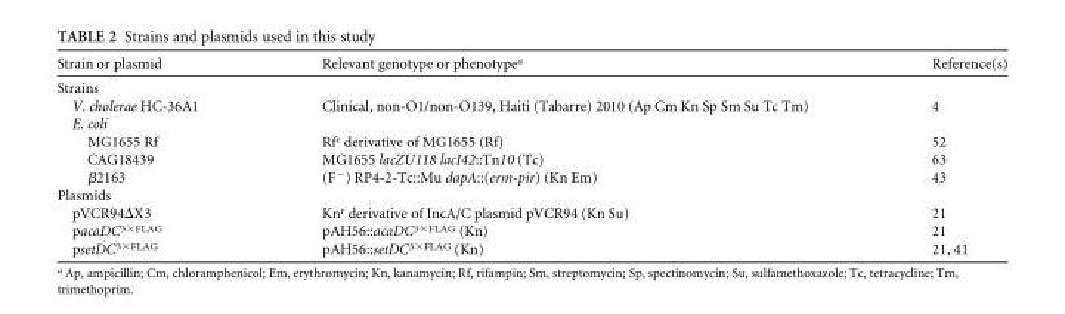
<table><thead><tr><td>Strain or plasmid</td><td>Relevant genotype or phenotype<sup>a</sup></td><td>Reference(s)</td></tr></thead><tbody><tr><td colspan="3">Strains</td></tr><tr><td>V. cholerae HC-36A1</td><td>Clinical, non-O1/non-O139, Haiti (Tabarre) 2010 (Ap Cm Kn Sp Sm Su Tc Tm)</td><td>4</td></tr><tr><td colspan="3">E. coli</td></tr><tr><td>MG1655 Rf</td><td>Rf<sup>r</sup> derivative of MG1655 (Rf)</td><td>52</td></tr><tr><td>CAG18439</td><td>MG1655 lacZU118 lacI42::Tn10 (Tc)</td><td>63</td></tr><tr><td>β2163</td><td>(F<sup>−</sup>) RP4-2-Tc::Mu dapA::(erm-pir) (Kn Em)</td><td>43</td></tr><tr><td colspan="3">Plasmids</td></tr><tr><td>pVCR94ΔX3</td><td>Kn<sup>r</sup> derivative of IncA/C plasmid pVCR94 (Kn Su)</td><td>21</td></tr><tr><td>pacaDC<sup>3×FLAG</sup></td><td>pAH56::acaDC<sup>3×FLAG</sup> (Kn)</td><td>21</td></tr><tr><td>psetDC<sup>3×FLAG</sup></td><td>pAH56::setDC<sup>3×FLAG</sup> (Kn)</td><td>21, 41</td></tr></tbody></table>